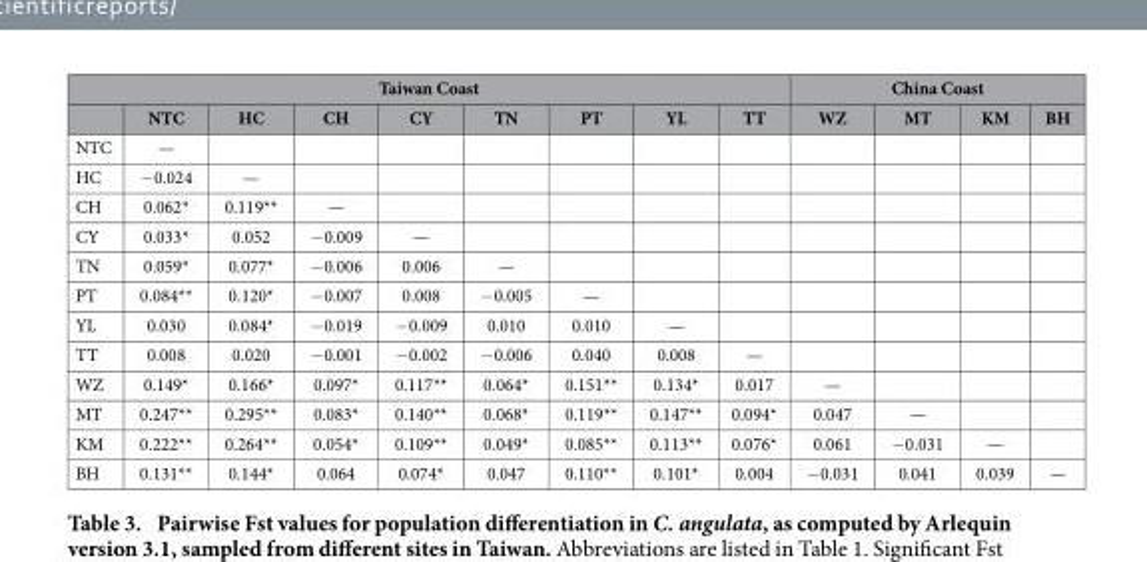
<table><thead><tr><td colspan="9">Taiwan Coast</td><td colspan="4">China Coast</td></tr><tr><td></td><td>NTC</td><td>HC</td><td>CH</td><td>CY</td><td>TN</td><td>PT</td><td>YL</td><td>TT</td><td>WZ</td><td>MT</td><td>KM</td><td>BH</td></tr></thead><tbody><tr><td>NTC</td><td>—</td><td></td><td></td><td></td><td></td><td></td><td></td><td></td><td></td><td></td><td></td><td></td></tr><tr><td>HC</td><td>− 0.024</td><td>—</td><td></td><td></td><td></td><td></td><td></td><td></td><td></td><td></td><td></td><td></td></tr><tr><td>CH</td><td>0.062*</td><td>0.119**</td><td>—</td><td></td><td></td><td></td><td></td><td></td><td></td><td></td><td></td><td></td></tr><tr><td>CY</td><td>0.033*</td><td>0.052</td><td>− 0.009</td><td>—</td><td></td><td></td><td></td><td></td><td></td><td></td><td></td><td></td></tr><tr><td>TN</td><td>0.059*</td><td>0.077*</td><td>− 0.006</td><td>0.006</td><td>—</td><td></td><td></td><td></td><td></td><td></td><td></td><td></td></tr><tr><td>PT</td><td>0.084**</td><td>0.120*</td><td>− 0.007</td><td>0.008</td><td>− 0.005</td><td>—</td><td></td><td></td><td></td><td></td><td></td><td></td></tr><tr><td>YL</td><td>0.030</td><td>0.084*</td><td>− 0.019</td><td>− 0.009</td><td>0.010</td><td>0.010</td><td>—</td><td></td><td></td><td></td><td></td><td></td></tr><tr><td>TT</td><td>0.008</td><td>0.020</td><td>− 0.001</td><td>− 0.002</td><td>− 0.006</td><td>0.040</td><td>0.008</td><td>—</td><td></td><td></td><td></td><td></td></tr><tr><td>WZ</td><td>0.149*</td><td>0.166*</td><td>0.097*</td><td>0.117**</td><td>0.064*</td><td>0.151**</td><td>0.134*</td><td>0.017</td><td>—</td><td></td><td></td><td></td></tr><tr><td>MT</td><td>0.247**</td><td>0.295**</td><td>0.083*</td><td>0.140**</td><td>0.068*</td><td>0.119**</td><td>0.147**</td><td>0.094*</td><td>0.047</td><td>—</td><td></td><td></td></tr><tr><td>KM</td><td>0.222**</td><td>0.264**</td><td>0.054*</td><td>0.109**</td><td>0.049*</td><td>0.085**</td><td>0.113**</td><td>0.076*</td><td>0.061</td><td>− 0.031</td><td>—</td><td></td></tr><tr><td>BH</td><td>0.131**</td><td>0.144*</td><td>0.064</td><td>0.074*</td><td>0.047</td><td>0.110**</td><td>0.101*</td><td>0.004</td><td>− 0.031</td><td>0.041</td><td>0.039</td><td>—</td></tr></tbody></table>